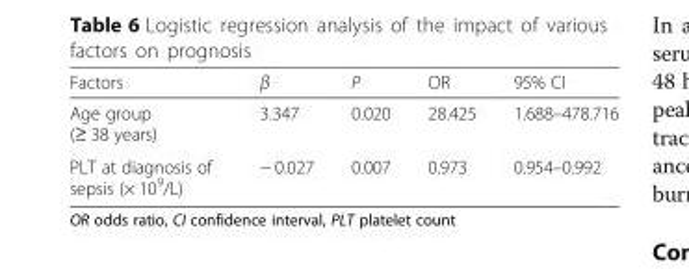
<table><thead><tr><td>Factors</td><td>β</td><td>P</td><td>OR</td><td>95% CI</td></tr></thead><tbody><tr><td>Age group (≥ 38 years)</td><td>3.347</td><td>0.020</td><td>28.425</td><td>1.688–478.716</td></tr><tr><td>PLT at diagnosis of sepsis (× 10<sup>9</sup>/L)</td><td>− 0.027</td><td>0.007</td><td>0.973</td><td>0.954–0.992</td></tr></tbody></table>